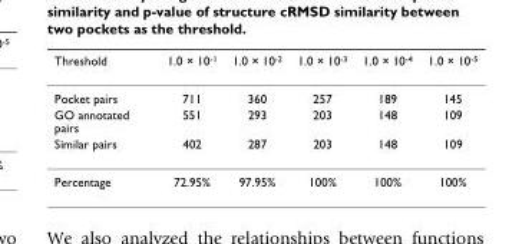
<table><thead><tr><td>Threshold</td><td>1.0 × 10<sup>-1</sup></td><td>1.0 × 10<sup>-2</sup></td><td>1.0 × 10<sup>-3</sup></td><td>1.0 × 10<sup>-4</sup></td><td>1.0 × 10<sup>-5</sup></td></tr></thead><tbody><tr><td>Pocket pairs</td><td>711</td><td>360</td><td>257</td><td>189</td><td>145</td></tr><tr><td>GO annotated pairs</td><td>551</td><td>293</td><td>203</td><td>148</td><td>109</td></tr><tr><td>Similar pairs</td><td>402</td><td>287</td><td>203</td><td>148</td><td>109</td></tr><tr><td>Percentage</td><td>72.95%</td><td>97.95%</td><td>100%</td><td>100%</td><td>100%</td></tr></tbody></table>